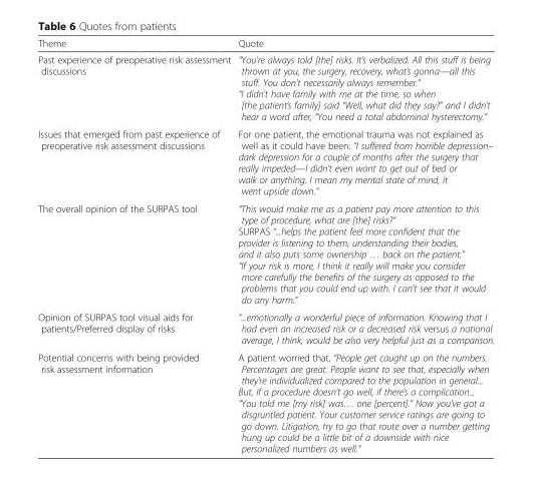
<table><thead><tr><td>Theme</td><td>Quote</td></tr></thead><tbody><tr><td>Past experience of preoperative risk assessment discussions</td><td>“You’re always told [the] risks. It’s verbalized. All this stuff is being thrown at you, the surgery, recovery, what’s gonna—all this stuff. You don’t necessarily always remember.” “I didn’t have family with me at the time, so when [the patient’s family] said “Well, what did they say?” and I didn’t hear a word after, “You need a total abdominal hysterectomy.”</td></tr><tr><td>Issues that emerged from past experience of preoperative risk assessment discussions</td><td>For one patient, the emotional trauma was not explained as well as it could have been: “I suffered from horrible depression– dark depression for a couple of months after the surgery that really impeded—I didn’t even want to get out of bed or walk or anything. I mean my mental state of mind, it went upside down.”</td></tr><tr><td>The overall opinion of the SURPAS tool</td><td>“This would make me as a patient pay more attention to this type of procedure, what are [the] risks?” SURPAS “...helps the patient feel more confident that the provider is listening to them, understanding their bodies, and it also puts some ownership … back on the patient.” “If your risk is more, I think it really will make you consider more carefully the benefits of the surgery as opposed to the problems that you could end up with. I can’t see that it would do any harm.”</td></tr><tr><td>Opinion of SURPAS tool visual aids for patients/Preferred display of risks</td><td>“...emotionally a wonderful piece of information. Knowing that I had even an increased risk or a decreased risk versus a national average, I think, would be also very helpful just as a comparison.</td></tr><tr><td>Potential concerns with being provided risk assessment information</td><td>A patient worried that, “People get caught up on the numbers. Percentages are great. People want to see that, especially when they’re individualized compared to the population in general... But, if a procedure doesn’t go well, if there’s a complication... “You told me [my risk] was… one [percent].” Now you’ve got a disgruntled patient. Your customer service ratings are going to go down. Litigation, try to go that route over a number getting hung up could be a little bit of a downside with nice personalized numbers as well.”</td></tr></tbody></table>